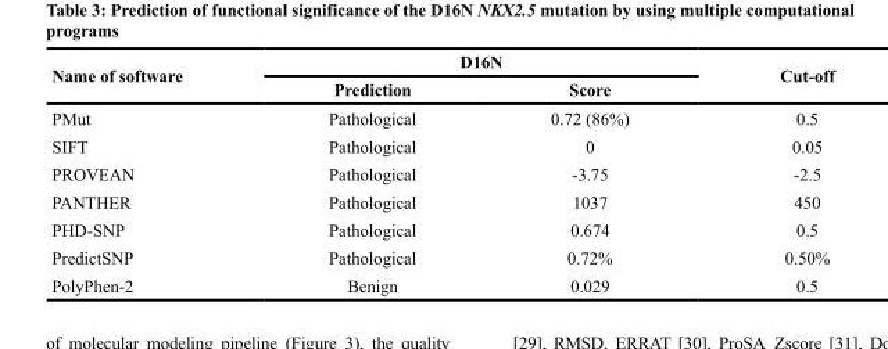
<table><thead><tr><td rowspan="2">Name of software</td><td colspan="2">D16N</td><td rowspan="2">Cut-off</td></tr><tr><td>Prediction</td><td>Score</td></tr></thead><tbody><tr><td>PMut</td><td>Pathological</td><td>0.72 (86%)</td><td>0.5</td></tr><tr><td>SIFT</td><td>Pathological</td><td>0</td><td>0.05</td></tr><tr><td>PROVEAN</td><td>Pathological</td><td>-3.75</td><td>-2.5</td></tr><tr><td>PANTHER</td><td>Pathological</td><td>1037</td><td>450</td></tr><tr><td>PHD-SNP</td><td>Pathological</td><td>0.674</td><td>0.5</td></tr><tr><td>PredictSNP</td><td>Pathological</td><td>0.72%</td><td>0.50%</td></tr><tr><td>PolyPhen-2</td><td>Benign</td><td>0.029</td><td>0.5</td></tr></tbody></table>